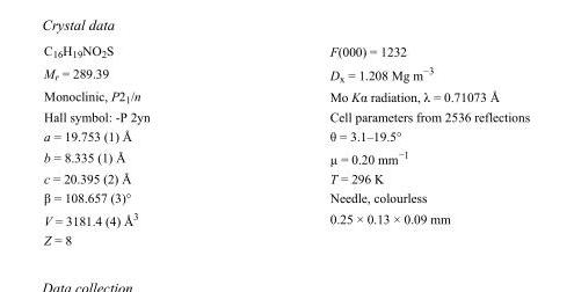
<table><tbody><tr><td>C<sub>16</sub>H<sub>19</sub>NO<sub>2</sub>S</td><td>F(000) = 1232</td></tr><tr><td>M<sub>r</sub> = 289.39</td><td>D<sub>x</sub> = 1.208 Mg m<sup>−3</sup></td></tr><tr><td>Monoclinic, P2<sub>1</sub>/n</td><td>Mo Kα radiation, λ = 0.71073 Å</td></tr><tr><td>Hall symbol: -P 2yn</td><td>Cell parameters from 2536 reflections</td></tr><tr><td>a = 19.753 (1) Å</td><td>θ = 3.1–19.5°</td></tr><tr><td>b = 8.335 (1) Å</td><td>µ = 0.20 mm<sup>−1</sup></td></tr><tr><td>c = 20.395 (2) Å</td><td>T = 296 K</td></tr><tr><td>β = 108.657 (3)°</td><td>Needle, colourless</td></tr><tr><td>V = 3181.4 (4) Å<sup>3</sup></td><td>0.25 × 0.13 × 0.09 mm</td></tr><tr><td>Z = 8</td><td></td></tr></tbody></table>